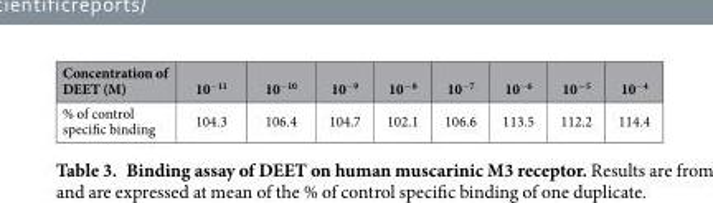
<table><thead><tr><td>Concentration of DEET (M)</td><td>10<sup>−11</sup></td><td>10<sup>−10</sup></td><td>10<sup>−9</sup></td><td>10<sup>−8</sup></td><td>10<sup>−7</sup></td><td>10<sup>−6</sup></td><td>10<sup>−5</sup></td><td>10<sup>−4</sup></td></tr></thead><tbody><tr><td>% of control specific binding</td><td>104.3</td><td>106.4</td><td>104.7</td><td>102.1</td><td>106.6</td><td>113.5</td><td>112.2</td><td>114.4</td></tr></tbody></table>